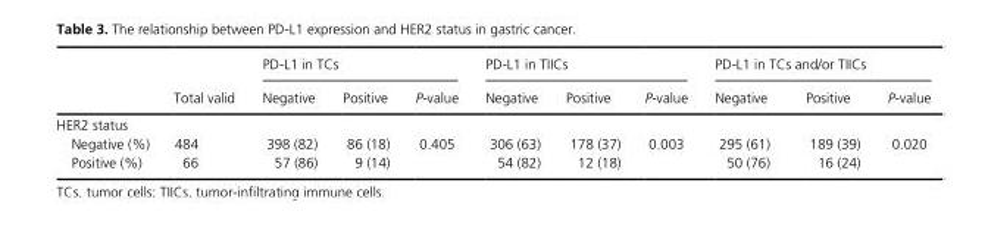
<table><thead><tr><td rowspan="2"></td><td rowspan="2">Total valid</td><td colspan="3">PD- L1 in TCs</td><td colspan="3">PD- L1 in TIICs</td><td colspan="3">PD- L1 in TCs and/or TIICs</td></tr><tr><td>Negative</td><td>Positive</td><td>P- value</td><td>Negative</td><td>Positive</td><td>P- value</td><td>Negative</td><td>Positive</td><td>P- value</td></tr></thead><tbody><tr><td colspan="11">HER2 status</td></tr><tr><td>Negative (%)</td><td>484</td><td>398 (82)</td><td>86 (18)</td><td rowspan="2">0.405</td><td>306 (63)</td><td>178 (37)</td><td rowspan="2">0.003</td><td>295 (61)</td><td>189 (39)</td><td rowspan="2">0.020</td></tr><tr><td>Positive (%)</td><td>66</td><td>57 (86)</td><td>9 (14)</td><td>54 (82)</td><td>12 (18)</td><td>50 (76)</td><td>16 (24)</td></tr></tbody></table>